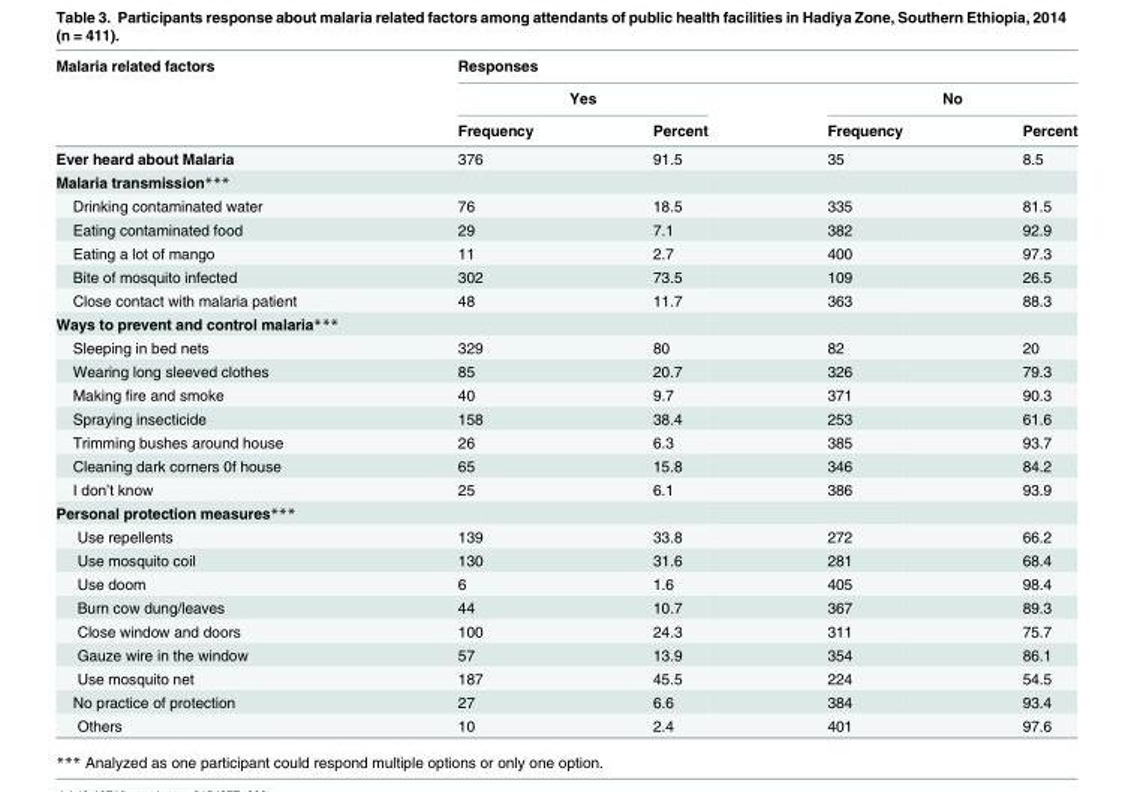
<table><thead><tr><td rowspan="3">Malaria related factors</td><td colspan="4">Responses</td></tr><tr><td colspan="2">Yes</td><td colspan="2">No</td></tr><tr><td>Frequency</td><td>Percent</td><td>Frequency</td><td>Percent</td></tr></thead><tbody><tr><td>Ever heard about Malaria</td><td>376</td><td>91.5</td><td>35</td><td>8.5</td></tr><tr><td colspan="5">Malaria transmission***</td></tr><tr><td>Drinking contaminated water</td><td>76</td><td>18.5</td><td>335</td><td>81.5</td></tr><tr><td>Eating contaminated food</td><td>29</td><td>7.1</td><td>382</td><td>92.9</td></tr><tr><td>Eating a lot of mango</td><td>11</td><td>2.7</td><td>400</td><td>97.3</td></tr><tr><td>Bite of mosquito infected</td><td>302</td><td>73.5</td><td>109</td><td>26.5</td></tr><tr><td>Close contact with malaria patient</td><td>48</td><td>11.7</td><td>363</td><td>88.3</td></tr><tr><td colspan="5">Ways to prevent and control malaria***</td></tr><tr><td>Sleeping in bed nets</td><td>329</td><td>80</td><td>82</td><td>20</td></tr><tr><td>Wearing long sleeved clothes</td><td>85</td><td>20.7</td><td>326</td><td>79.3</td></tr><tr><td>Making fire and smoke</td><td>40</td><td>9.7</td><td>371</td><td>90.3</td></tr><tr><td>Spraying insecticide</td><td>158</td><td>38.4</td><td>253</td><td>61.6</td></tr><tr><td>Trimming bushes around house</td><td>26</td><td>6.3</td><td>385</td><td>93.7</td></tr><tr><td>Cleaning dark corners 0f house</td><td>65</td><td>15.8</td><td>346</td><td>84.2</td></tr><tr><td>I don’t know</td><td>25</td><td>6.1</td><td>386</td><td>93.9</td></tr><tr><td colspan="5">Personal protection measures***</td></tr><tr><td>Use repellents</td><td>139</td><td>33.8</td><td>272</td><td>66.2</td></tr><tr><td>Use mosquito coil</td><td>130</td><td>31.6</td><td>281</td><td>68.4</td></tr><tr><td>Use doom</td><td>6</td><td>1.6</td><td>405</td><td>98.4</td></tr><tr><td>Burn cow dung/leaves</td><td>44</td><td>10.7</td><td>367</td><td>89.3</td></tr><tr><td>Close window and doors</td><td>100</td><td>24.3</td><td>311</td><td>75.7</td></tr><tr><td>Gauze wire in the window</td><td>57</td><td>13.9</td><td>354</td><td>86.1</td></tr><tr><td>Use mosquito net</td><td>187</td><td>45.5</td><td>224</td><td>54.5</td></tr><tr><td>No practice of protection</td><td>27</td><td>6.6</td><td>384</td><td>93.4</td></tr><tr><td>Others</td><td>10</td><td>2.4</td><td>401</td><td>97.6</td></tr></tbody></table>